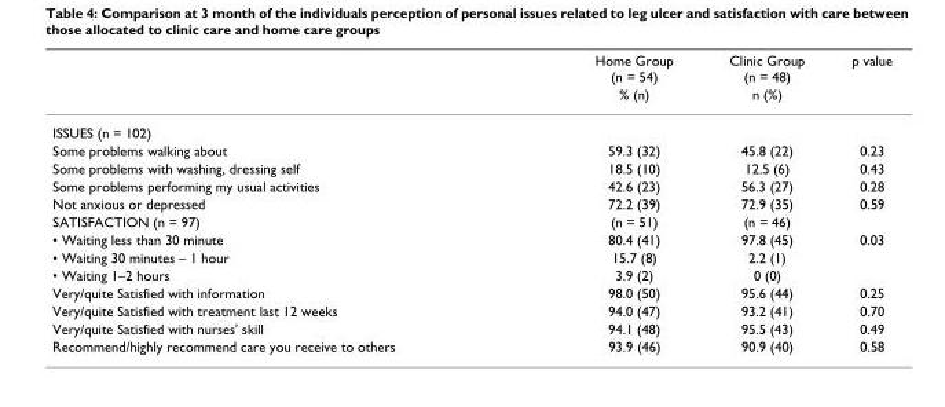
<table><thead><tr><td rowspan="2"></td><td rowspan="2">Home Group (n = 54) % (n)</td><td rowspan="2">Clinic Group (n = 48) n (%)</td><td rowspan="2">p value</td></tr><tr></tr></thead><tbody><tr><td colspan="4">ISSUES (n = 102)</td></tr><tr><td>Some problems walking about</td><td>59.3 (32)</td><td>45.8 (22)</td><td>0.23</td></tr><tr><td>Some problems with washing, dressing self</td><td>18.5 (10)</td><td>12.5 (6)</td><td>0.43</td></tr><tr><td>Some problems performing my usual activities</td><td>42.6 (23)</td><td>56.3 (27)</td><td>0.28</td></tr><tr><td>Not anxious or depressed</td><td>72.2 (39)</td><td>72.9 (35)</td><td>0.59</td></tr><tr><td>SATISFACTION (n = 97)</td><td>(n = 51)</td><td>(n = 46)</td><td></td></tr><tr><td>• Waiting less than 30 minute</td><td>80.4 (41)</td><td>97.8 (45)</td><td>0.03</td></tr><tr><td>• Waiting 30 minutes – 1 hour</td><td>15.7 (8)</td><td>2.2 (1)</td><td></td></tr><tr><td>• Waiting 1–2 hours</td><td>3.9 (2)</td><td>0 (0)</td><td></td></tr><tr><td>Very/quite Satisfied with information</td><td>98.0 (50)</td><td>95.6 (44)</td><td>0.25</td></tr><tr><td>Very/quite Satisfied with treatment last 12 weeks</td><td>94.0 (47)</td><td>93.2 (41)</td><td>0.70</td></tr><tr><td>Very/quite Satisfied with nurses&#x27; skill</td><td>94.1 (48)</td><td>95.5 (43)</td><td>0.49</td></tr><tr><td>Recommend/highly recommend care you receive to others</td><td>93.9 (46)</td><td>90.9 (40)</td><td>0.58</td></tr></tbody></table>